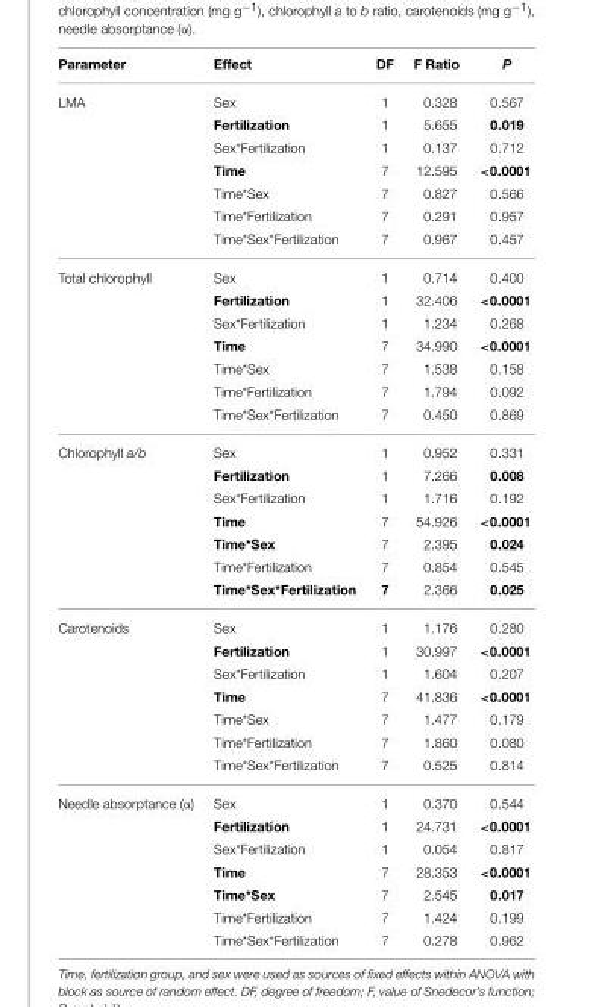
<table><thead><tr><td>Parameter</td><td>Effect</td><td>DF</td><td>F Ratio</td><td>P</td></tr></thead><tbody><tr><td rowspan="7">LMA</td><td>Sex</td><td>1</td><td>0.328</td><td>0.567</td></tr><tr><td>Fertilization</td><td>1</td><td>5.655</td><td>0.019</td></tr><tr><td>Sex*Fertilization</td><td>1</td><td>0.137</td><td>0.712</td></tr><tr><td>Time</td><td>7</td><td>12.595</td><td>&lt;0.0001</td></tr><tr><td>Time*Sex</td><td>7</td><td>0.827</td><td>0.566</td></tr><tr><td>Time*Fertilization</td><td>7</td><td>0.291</td><td>0.957</td></tr><tr><td>Time*Sex*Fertilization</td><td>7</td><td>0.967</td><td>0.457</td></tr><tr><td rowspan="7">Total chlorophyll</td><td>Sex</td><td>1</td><td>0.714</td><td>0.400</td></tr><tr><td>Fertilization</td><td>1</td><td>32.406</td><td>&lt;0.0001</td></tr><tr><td>Sex*Fertilization</td><td>1</td><td>1.234</td><td>0.268</td></tr><tr><td>Time</td><td>7</td><td>34.990</td><td>&lt;0.0001</td></tr><tr><td>Time*Sex</td><td>7</td><td>1.538</td><td>0.158</td></tr><tr><td>Time*Fertilization</td><td>7</td><td>1.794</td><td>0.092</td></tr><tr><td>Time*Sex*Fertilization</td><td>7</td><td>0.450</td><td>0.869</td></tr><tr><td rowspan="7">Chlorophyll a/b</td><td>Sex</td><td>1</td><td>0.952</td><td>0.331</td></tr><tr><td>Fertilization</td><td>1</td><td>7.266</td><td>0.008</td></tr><tr><td>Sex*Fertilization</td><td>1</td><td>1.716</td><td>0.192</td></tr><tr><td>Time</td><td>7</td><td>54.926</td><td>&lt;0.0001</td></tr><tr><td>Time*Sex</td><td>7</td><td>2.395</td><td>0.024</td></tr><tr><td>Time*Fertilization</td><td>7</td><td>0.854</td><td>0.545</td></tr><tr><td>Time*Sex*Fertilization</td><td>7</td><td>2.366</td><td>0.025</td></tr><tr><td rowspan="7">Carotenoids</td><td>Sex</td><td>1</td><td>1.176</td><td>0.280</td></tr><tr><td>Fertilization</td><td>1</td><td>30.997</td><td>&lt;0.0001</td></tr><tr><td>Sex*Fertilization</td><td>1</td><td>1.604</td><td>0.207</td></tr><tr><td>Time</td><td>7</td><td>41.836</td><td>&lt;0.0001</td></tr><tr><td>Time*Sex</td><td>7</td><td>1.477</td><td>0.179</td></tr><tr><td>Time*Fertilization</td><td>7</td><td>1.860</td><td>0.080</td></tr><tr><td>Time*Sex*Fertilization</td><td>7</td><td>0.525</td><td>0.814</td></tr><tr><td rowspan="7">Needle absorptance (α)</td><td>Sex</td><td>1</td><td>0.370</td><td>0.544</td></tr><tr><td>Fertilization</td><td>1</td><td>24.731</td><td>&lt;0.0001</td></tr><tr><td>Sex*Fertilization</td><td>1</td><td>0.054</td><td>0.817</td></tr><tr><td>Time</td><td>7</td><td>28.353</td><td>&lt;0.0001</td></tr><tr><td>Time*Sex</td><td>7</td><td>2.545</td><td>0.017</td></tr><tr><td>Time*Fertilization</td><td>7</td><td>1.424</td><td>0.199</td></tr><tr><td>Time*Sex*Fertilization</td><td>7</td><td>0.278</td><td>0.962</td></tr></tbody></table>